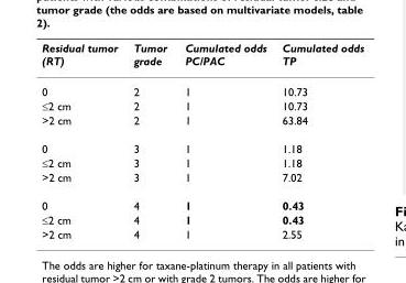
<table><thead><tr><td>Residual tumor (RT)</td><td>Tumor grade</td><td>Cumulated odds PC/PAC</td><td>Cumulated odds TP</td></tr></thead><tbody><tr><td>0</td><td>2</td><td>1</td><td>10.73</td></tr><tr><td>≤2 cm</td><td>2</td><td>1</td><td>10.73</td></tr><tr><td>&gt;2 cm</td><td>2</td><td>1</td><td>63.84</td></tr><tr><td>0</td><td>3</td><td>1</td><td>1.18</td></tr><tr><td>≤2 cm</td><td>3</td><td>1</td><td>1.18</td></tr><tr><td>&gt;2 cm</td><td>3</td><td>1</td><td>7.02</td></tr><tr><td>0</td><td>4</td><td>1</td><td>0.43</td></tr><tr><td>≤2 cm</td><td>4</td><td>1</td><td>0.43</td></tr><tr><td>&gt;2 cm</td><td>4</td><td>1</td><td>2.55</td></tr></tbody></table>